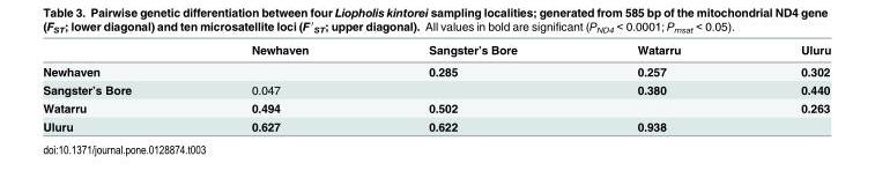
<table><thead><tr><td></td><td>Newhaven</td><td>Sangster’s Bore</td><td>Watarru</td><td>Uluru</td></tr></thead><tbody><tr><td>Newhaven</td><td></td><td>0.285</td><td>0.257</td><td>0.302</td></tr><tr><td>Sangster’s Bore</td><td>0.047</td><td></td><td>0.380</td><td>0.440</td></tr><tr><td>Watarru</td><td>0.494</td><td>0.502</td><td></td><td>0.263</td></tr><tr><td>Uluru</td><td>0.627</td><td>0.622</td><td>0.938</td><td></td></tr></tbody></table>